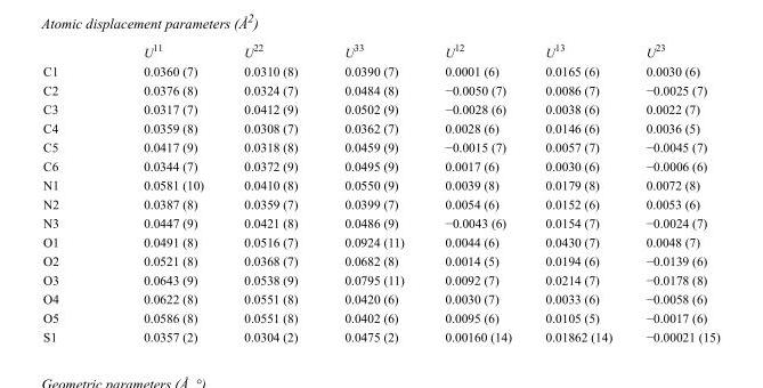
<table><thead><tr><td></td><td>U<sup>11</sup></td><td>U<sup>22</sup></td><td>U<sup>33</sup></td><td>U<sup>12</sup></td><td>U<sup>13</sup></td><td>U<sup>23</sup></td></tr></thead><tbody><tr><td>C1</td><td>0.0360 (7)</td><td>0.0310 (8)</td><td>0.0390 (7)</td><td>0.0001 (6)</td><td>0.0165 (6)</td><td>0.0030 (6)</td></tr><tr><td>C2</td><td>0.0376 (8)</td><td>0.0324 (7)</td><td>0.0484 (8)</td><td>−0.0050 (7)</td><td>0.0086 (7)</td><td>−0.0025 (7)</td></tr><tr><td>C3</td><td>0.0317 (7)</td><td>0.0412 (9)</td><td>0.0502 (9)</td><td>−0.0028 (6)</td><td>0.0038 (6)</td><td>0.0022 (7)</td></tr><tr><td>C4</td><td>0.0359 (8)</td><td>0.0308 (7)</td><td>0.0362 (7)</td><td>0.0028 (6)</td><td>0.0146 (6)</td><td>0.0036 (5)</td></tr><tr><td>C5</td><td>0.0417 (9)</td><td>0.0318 (8)</td><td>0.0459 (9)</td><td>−0.0015 (7)</td><td>0.0057 (7)</td><td>−0.0045 (7)</td></tr><tr><td>C6</td><td>0.0344 (7)</td><td>0.0372 (9)</td><td>0.0495 (9)</td><td>0.0017 (6)</td><td>0.0030 (6)</td><td>−0.0006 (6)</td></tr><tr><td>N1</td><td>0.0581 (10)</td><td>0.0410 (8)</td><td>0.0550 (9)</td><td>0.0039 (8)</td><td>0.0179 (8)</td><td>0.0072 (8)</td></tr><tr><td>N2</td><td>0.0387 (8)</td><td>0.0359 (7)</td><td>0.0399 (7)</td><td>0.0054 (6)</td><td>0.0152 (6)</td><td>0.0053 (6)</td></tr><tr><td>N3</td><td>0.0447 (9)</td><td>0.0421 (8)</td><td>0.0486 (9)</td><td>−0.0043 (6)</td><td>0.0154 (7)</td><td>−0.0024 (7)</td></tr><tr><td>O1</td><td>0.0491 (8)</td><td>0.0516 (7)</td><td>0.0924 (11)</td><td>0.0044 (6)</td><td>0.0430 (7)</td><td>0.0048 (7)</td></tr><tr><td>O2</td><td>0.0521 (8)</td><td>0.0368 (7)</td><td>0.0682 (8)</td><td>0.0014 (5)</td><td>0.0194 (6)</td><td>−0.0139 (6)</td></tr><tr><td>O3</td><td>0.0643 (9)</td><td>0.0538 (9)</td><td>0.0795 (11)</td><td>0.0092 (7)</td><td>0.0214 (7)</td><td>−0.0178 (8)</td></tr><tr><td>O4</td><td>0.0622 (8)</td><td>0.0551 (8)</td><td>0.0420 (6)</td><td>0.0030 (7)</td><td>0.0033 (6)</td><td>−0.0058 (6)</td></tr><tr><td>O5</td><td>0.0586 (8)</td><td>0.0551 (8)</td><td>0.0402 (6)</td><td>0.0095 (6)</td><td>0.0105 (5)</td><td>−0.0017 (6)</td></tr><tr><td>S1</td><td>0.0357 (2)</td><td>0.0304 (2)</td><td>0.0475 (2)</td><td>0.00160 (14)</td><td>0.01862 (14)</td><td>−0.00021 (15)</td></tr></tbody></table>